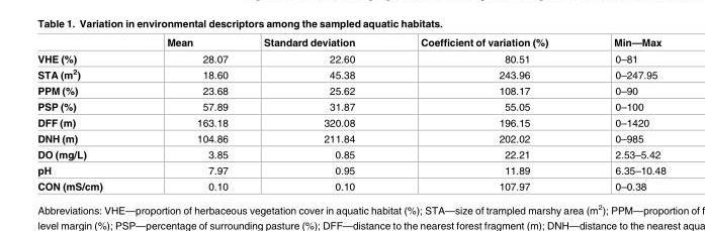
<table><thead><tr><td></td><td>Mean</td><td>Standard deviation</td><td>Coefficient of variation (%)</td><td>Min—Max</td></tr></thead><tbody><tr><td>VHE (%)</td><td>28.07</td><td>22.60</td><td>80.51</td><td>0–81</td></tr><tr><td>STA (m<sup>2</sup>)</td><td>18.60</td><td>45.38</td><td>243.96</td><td>0–247.95</td></tr><tr><td>PPM (%)</td><td>23.68</td><td>25.62</td><td>108.17</td><td>0–90</td></tr><tr><td>PSP (%)</td><td>57.89</td><td>31.87</td><td>55.05</td><td>0–100</td></tr><tr><td>DFF (m)</td><td>163.18</td><td>320.08</td><td>196.15</td><td>0–1420</td></tr><tr><td>DNH (m)</td><td>104.86</td><td>211.84</td><td>202.02</td><td>0–985</td></tr><tr><td>DO (mg/L)</td><td>3.85</td><td>0.85</td><td>22.21</td><td>2.53–5.42</td></tr><tr><td>pH</td><td>7.97</td><td>0.95</td><td>11.89</td><td>6.35–10.48</td></tr><tr><td>CON (mS/cm)</td><td>0.10</td><td>0.10</td><td>107.97</td><td>0–0.38</td></tr></tbody></table>